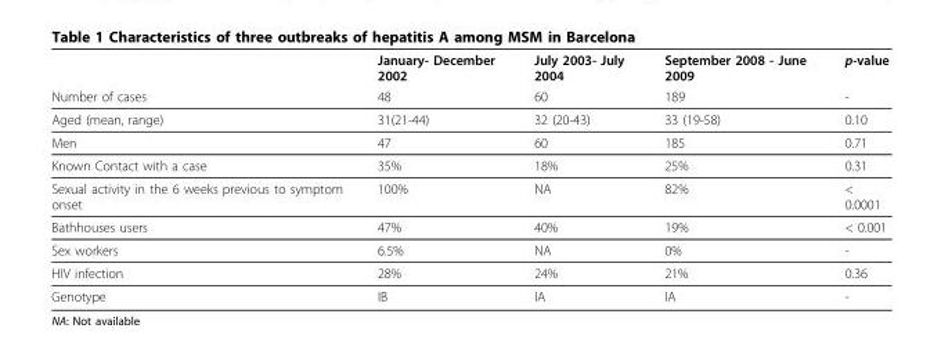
<table><thead><tr><td rowspan="2">Number of cases</td><td rowspan="2">January- December 2002 48</td><td rowspan="2">July 2003- July 2004 60</td><td rowspan="2">September 2008 - June 2009 189</td><td rowspan="2">p-value -</td></tr><tr></tr></thead><tbody><tr><td>Aged (mean, range)</td><td>31(21-44)</td><td>32 (20-43)</td><td>33 (19-58)</td><td>0.10</td></tr><tr><td>Men</td><td>47</td><td>60</td><td>185</td><td>0.71</td></tr><tr><td>Known Contact with a case</td><td>35%</td><td>18%</td><td>25%</td><td>0.31</td></tr><tr><td>Sexual activity in the 6 weeks previous to symptom onset</td><td>100%</td><td>NA</td><td>82%</td><td>&lt; 0.0001</td></tr><tr><td>Bathhouses users</td><td>47%</td><td>40%</td><td>19%</td><td>&lt; 0.001</td></tr><tr><td>Sex workers</td><td>6.5%</td><td>NA</td><td>0%</td><td>-</td></tr><tr><td>HIV infection</td><td>28%</td><td>24%</td><td>21%</td><td>0.36</td></tr><tr><td>Genotype</td><td>IB</td><td>IA</td><td>IA</td><td>-</td></tr></tbody></table>